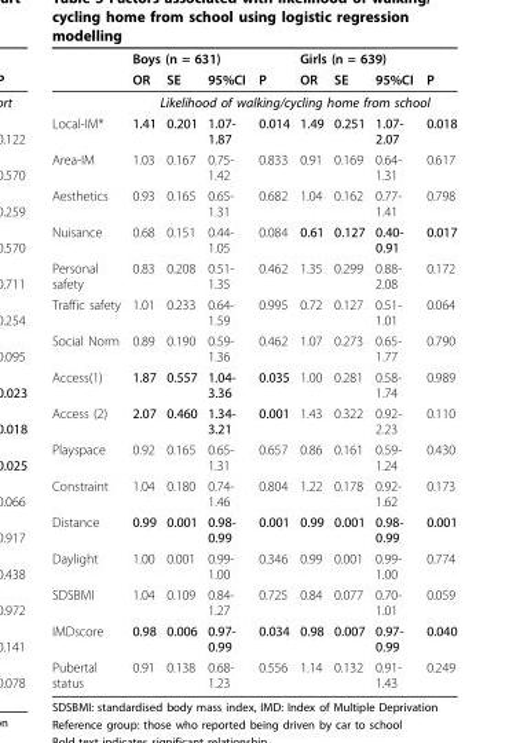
<table><thead><tr><td rowspan="2"></td><td colspan="3">Boys (n = 631)</td><td rowspan="2">P</td><td colspan="3">Girls (n = 639)</td><td rowspan="2">P</td></tr><tr><td>OR</td><td>SE</td><td>95%CI</td><td>OR</td><td>SE</td><td>95%CI</td></tr></thead><tbody><tr><td></td><td colspan="8">Likelihood of walking/cycling home from school</td></tr><tr><td>Local-IM*</td><td>1.41</td><td>0.201</td><td>1.07- 1.87</td><td>0.014</td><td>1.49</td><td>0.251</td><td>1.07- 2.07</td><td>0.018</td></tr><tr><td>Area-IM</td><td>1.03</td><td>0.167</td><td>0.75- 1.42</td><td>0.833</td><td>0.91</td><td>0.169</td><td>0.64- 1.31</td><td>0.617</td></tr><tr><td>Aesthetics</td><td>0.93</td><td>0.165</td><td>0.65- 1.31</td><td>0.682</td><td>1.04</td><td>0.162</td><td>0.77- 1.41</td><td>0.798</td></tr><tr><td>Nuisance</td><td>0.68</td><td>0.151</td><td>0.44- 1.05</td><td>0.084</td><td>0.61</td><td>0.127</td><td>0.40- 0.91</td><td>0.017</td></tr><tr><td>Personal safety</td><td>0.83</td><td>0.208</td><td>0.51- 1.35</td><td>0.462</td><td>1.35</td><td>0.299</td><td>0.88- 2.08</td><td>0.172</td></tr><tr><td>Traffic safety</td><td>1.01</td><td>0.233</td><td>0.64- 1.59</td><td>0.995</td><td>0.72</td><td>0.127</td><td>0.51- 1.01</td><td>0.064</td></tr><tr><td>Social Norm</td><td>0.89</td><td>0.190</td><td>0.59- 1.36</td><td>0.462</td><td>1.07</td><td>0.273</td><td>0.65- 1.77</td><td>0.790</td></tr><tr><td>Access(1)</td><td>1.87</td><td>0.557</td><td>1.04- 3.36</td><td>0.035</td><td>1.00</td><td>0.281</td><td>0.58- 1.74</td><td>0.989</td></tr><tr><td>Access (2)</td><td>2.07</td><td>0.460</td><td>1.34- 3.21</td><td>0.001</td><td>1.43</td><td>0.322</td><td>0.92- 2.23</td><td>0.110</td></tr><tr><td>Playspace</td><td>0.92</td><td>0.165</td><td>0.65- 1.31</td><td>0.657</td><td>0.86</td><td>0.161</td><td>0.59- 1.24</td><td>0.430</td></tr><tr><td>Constraint</td><td>1.04</td><td>0.180</td><td>0.74- 1.46</td><td>0.804</td><td>1.22</td><td>0.178</td><td>0.92- 1.62</td><td>0.173</td></tr><tr><td>Distance</td><td>0.99</td><td>0.001</td><td>0.98- 0.99</td><td>0.001</td><td>0.99</td><td>0.001</td><td>0.98- 0.99</td><td>0.001</td></tr><tr><td>Daylight</td><td>1.00</td><td>0.001</td><td>0.99- 1.00</td><td>0.346</td><td>0.99</td><td>0.001</td><td>0.99- 1.00</td><td>0.774</td></tr><tr><td>SDSBMI</td><td>1.04</td><td>0.109</td><td>0.84- 1.27</td><td>0.725</td><td>0.84</td><td>0.077</td><td>0.70- 1.01</td><td>0.059</td></tr><tr><td>IMDscore</td><td>0.98</td><td>0.006</td><td>0.97- 0.99</td><td>0.034</td><td>0.98</td><td>0.007</td><td>0.97- 0.99</td><td>0.040</td></tr><tr><td>Pubertal status</td><td>0.91</td><td>0.138</td><td>0.68- 1.23</td><td>0.556</td><td>1.14</td><td>0.132</td><td>0.91- 1.43</td><td>0.249</td></tr></tbody></table>